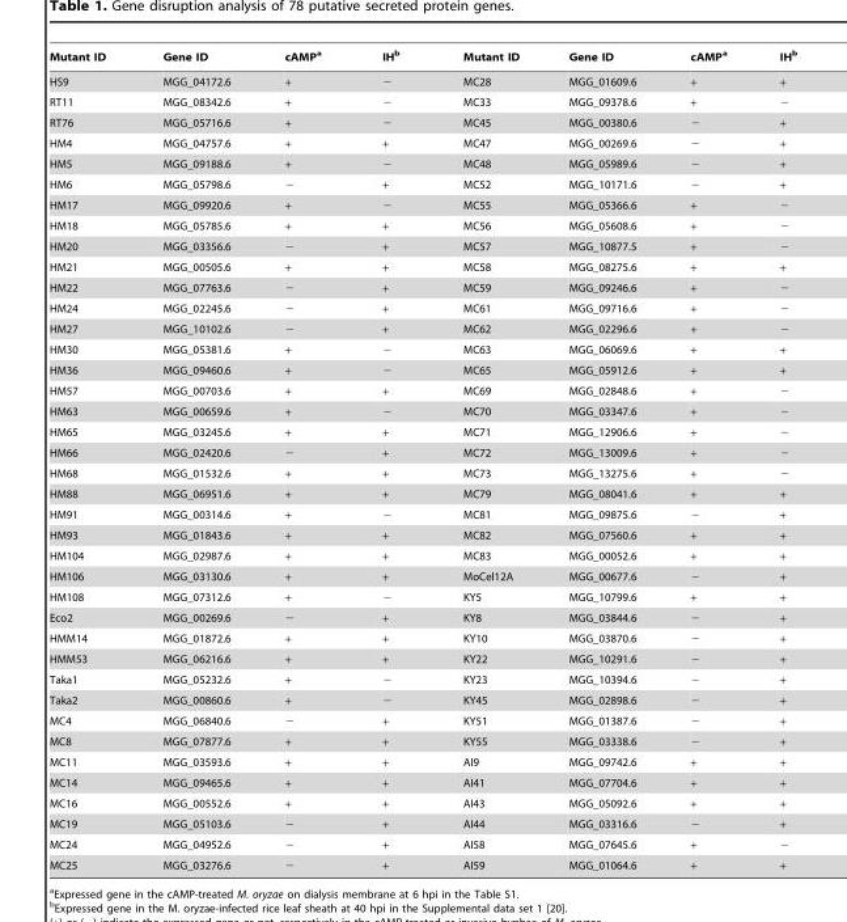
<table><thead><tr><td>Mutant ID</td><td>Gene ID</td><td>cAMP<sup>a</sup></td><td>IH<sup>b</sup></td><td>Mutant ID</td><td>Gene ID</td><td>cAMP<sup>a</sup></td><td>IH<sup>b</sup></td></tr></thead><tbody><tr><td>HS9</td><td>MGG_04172.6</td><td>+</td><td>−</td><td>MC28</td><td>MGG_01609.6</td><td>+</td><td>+</td></tr><tr><td>RT11</td><td>MGG_08342.6</td><td>+</td><td>−</td><td>MC33</td><td>MGG_09378.6</td><td>+</td><td>−</td></tr><tr><td>RT76</td><td>MGG_05716.6</td><td>+</td><td>−</td><td>MC45</td><td>MGG_00380.6</td><td>−</td><td>+</td></tr><tr><td>HM4</td><td>MGG_04757.6</td><td>+</td><td>+</td><td>MC47</td><td>MGG_00269.6</td><td>−</td><td>+</td></tr><tr><td>HM5</td><td>MGG_09188.6</td><td>+</td><td>−</td><td>MC48</td><td>MGG_05989.6</td><td>−</td><td>+</td></tr><tr><td>HM6</td><td>MGG_05798.6</td><td>−</td><td>+</td><td>MC52</td><td>MGG_10171.6</td><td>−</td><td>+</td></tr><tr><td>HM17</td><td>MGG_09920.6</td><td>+</td><td>−</td><td>MC55</td><td>MGG_05366.6</td><td>+</td><td>−</td></tr><tr><td>HM18</td><td>MGG_05785.6</td><td>+</td><td>+</td><td>MC56</td><td>MGG_05608.6</td><td>+</td><td>−</td></tr><tr><td>HM20</td><td>MGG_03356.6</td><td>−</td><td>+</td><td>MC57</td><td>MGG_10877.5</td><td>+</td><td>−</td></tr><tr><td>HM21</td><td>MGG_00505.6</td><td>+</td><td>+</td><td>MC58</td><td>MGG_08275.6</td><td>+</td><td>+</td></tr><tr><td>HM22</td><td>MGG_07763.6</td><td>−</td><td>+</td><td>MC59</td><td>MGG_09246.6</td><td>+</td><td>−</td></tr><tr><td>HM24</td><td>MGG_02245.6</td><td>−</td><td>+</td><td>MC61</td><td>MGG_09716.6</td><td>+</td><td>−</td></tr><tr><td>HM27</td><td>MGG_10102.6</td><td>−</td><td>+</td><td>MC62</td><td>MGG_02296.6</td><td>+</td><td>−</td></tr><tr><td>HM30</td><td>MGG_05381.6</td><td>+</td><td>−</td><td>MC63</td><td>MGG_06069.6</td><td>+</td><td>+</td></tr><tr><td>HM36</td><td>MGG_09460.6</td><td>+</td><td>−</td><td>MC65</td><td>MGG_05912.6</td><td>+</td><td>+</td></tr><tr><td>HM57</td><td>MGG_00703.6</td><td>+</td><td>+</td><td>MC69</td><td>MGG_02848.6</td><td>+</td><td>−</td></tr><tr><td>HM63</td><td>MGG_00659.6</td><td>+</td><td>−</td><td>MC70</td><td>MGG_03347.6</td><td>+</td><td>−</td></tr><tr><td>HM65</td><td>MGG_03245.6</td><td>+</td><td>+</td><td>MC71</td><td>MGG_12906.6</td><td>+</td><td>−</td></tr><tr><td>HM66</td><td>MGG_02420.6</td><td>−</td><td>+</td><td>MC72</td><td>MGG_13009.6</td><td>+</td><td>−</td></tr><tr><td>HM68</td><td>MGG_01532.6</td><td>+</td><td>+</td><td>MC73</td><td>MGG_13275.6</td><td>+</td><td>−</td></tr><tr><td>HM88</td><td>MGG_06951.6</td><td>+</td><td>+</td><td>MC79</td><td>MGG_08041.6</td><td>+</td><td>+</td></tr><tr><td>HM91</td><td>MGG_00314.6</td><td>+</td><td>−</td><td>MC81</td><td>MGG_09875.6</td><td>−</td><td>+</td></tr><tr><td>HM93</td><td>MGG_01843.6</td><td>+</td><td>+</td><td>MC82</td><td>MGG_07560.6</td><td>+</td><td>+</td></tr><tr><td>HM104</td><td>MGG_02987.6</td><td>+</td><td>+</td><td>MC83</td><td>MGG_00052.6</td><td>+</td><td>+</td></tr><tr><td>HM106</td><td>MGG_03130.6</td><td>+</td><td>+</td><td>MoCel12A</td><td>MGG_00677.6</td><td>−</td><td>+</td></tr><tr><td>HM108</td><td>MGG_07312.6</td><td>+</td><td>−</td><td>KY5</td><td>MGG_10799.6</td><td>+</td><td>+</td></tr><tr><td>Eco2</td><td>MGG_00269.6</td><td>−</td><td>+</td><td>KY8</td><td>MGG_03844.6</td><td>−</td><td>+</td></tr><tr><td>HMM14</td><td>MGG_01872.6</td><td>+</td><td>+</td><td>KY10</td><td>MGG_03870.6</td><td>−</td><td>+</td></tr><tr><td>HMM53</td><td>MGG_06216.6</td><td>+</td><td>+</td><td>KY22</td><td>MGG_10291.6</td><td>−</td><td>+</td></tr><tr><td>Taka1</td><td>MGG_05232.6</td><td>+</td><td>−</td><td>KY23</td><td>MGG_10394.6</td><td>−</td><td>+</td></tr><tr><td>Taka2</td><td>MGG_00860.6</td><td>+</td><td>−</td><td>KY45</td><td>MGG_02898.6</td><td>−</td><td>+</td></tr><tr><td>MC4</td><td>MGG_06840.6</td><td>−</td><td>+</td><td>KY51</td><td>MGG_01387.6</td><td>−</td><td>+</td></tr><tr><td>MC8</td><td>MGG_07877.6</td><td>+</td><td>+</td><td>KY55</td><td>MGG_03338.6</td><td>−</td><td>+</td></tr><tr><td>MC11</td><td>MGG_03593.6</td><td>+</td><td>+</td><td>AI9</td><td>MGG_09742.6</td><td>+</td><td>+</td></tr><tr><td>MC14</td><td>MGG_09465.6</td><td>+</td><td>+</td><td>AI41</td><td>MGG_07704.6</td><td>+</td><td>+</td></tr><tr><td>MC16</td><td>MGG_00552.6</td><td>+</td><td>+</td><td>AI43</td><td>MGG_05092.6</td><td>+</td><td>+</td></tr><tr><td>MC19</td><td>MGG_05103.6</td><td>−</td><td>+</td><td>AI44</td><td>MGG_03316.6</td><td>−</td><td>+</td></tr><tr><td>MC24</td><td>MGG_04952.6</td><td>−</td><td>+</td><td>AI58</td><td>MGG_07645.6</td><td>+</td><td>−</td></tr><tr><td>MC25</td><td>MGG_03276.6</td><td>−</td><td>+</td><td>AI59</td><td>MGG_01064.6</td><td>+</td><td>+</td></tr></tbody></table>